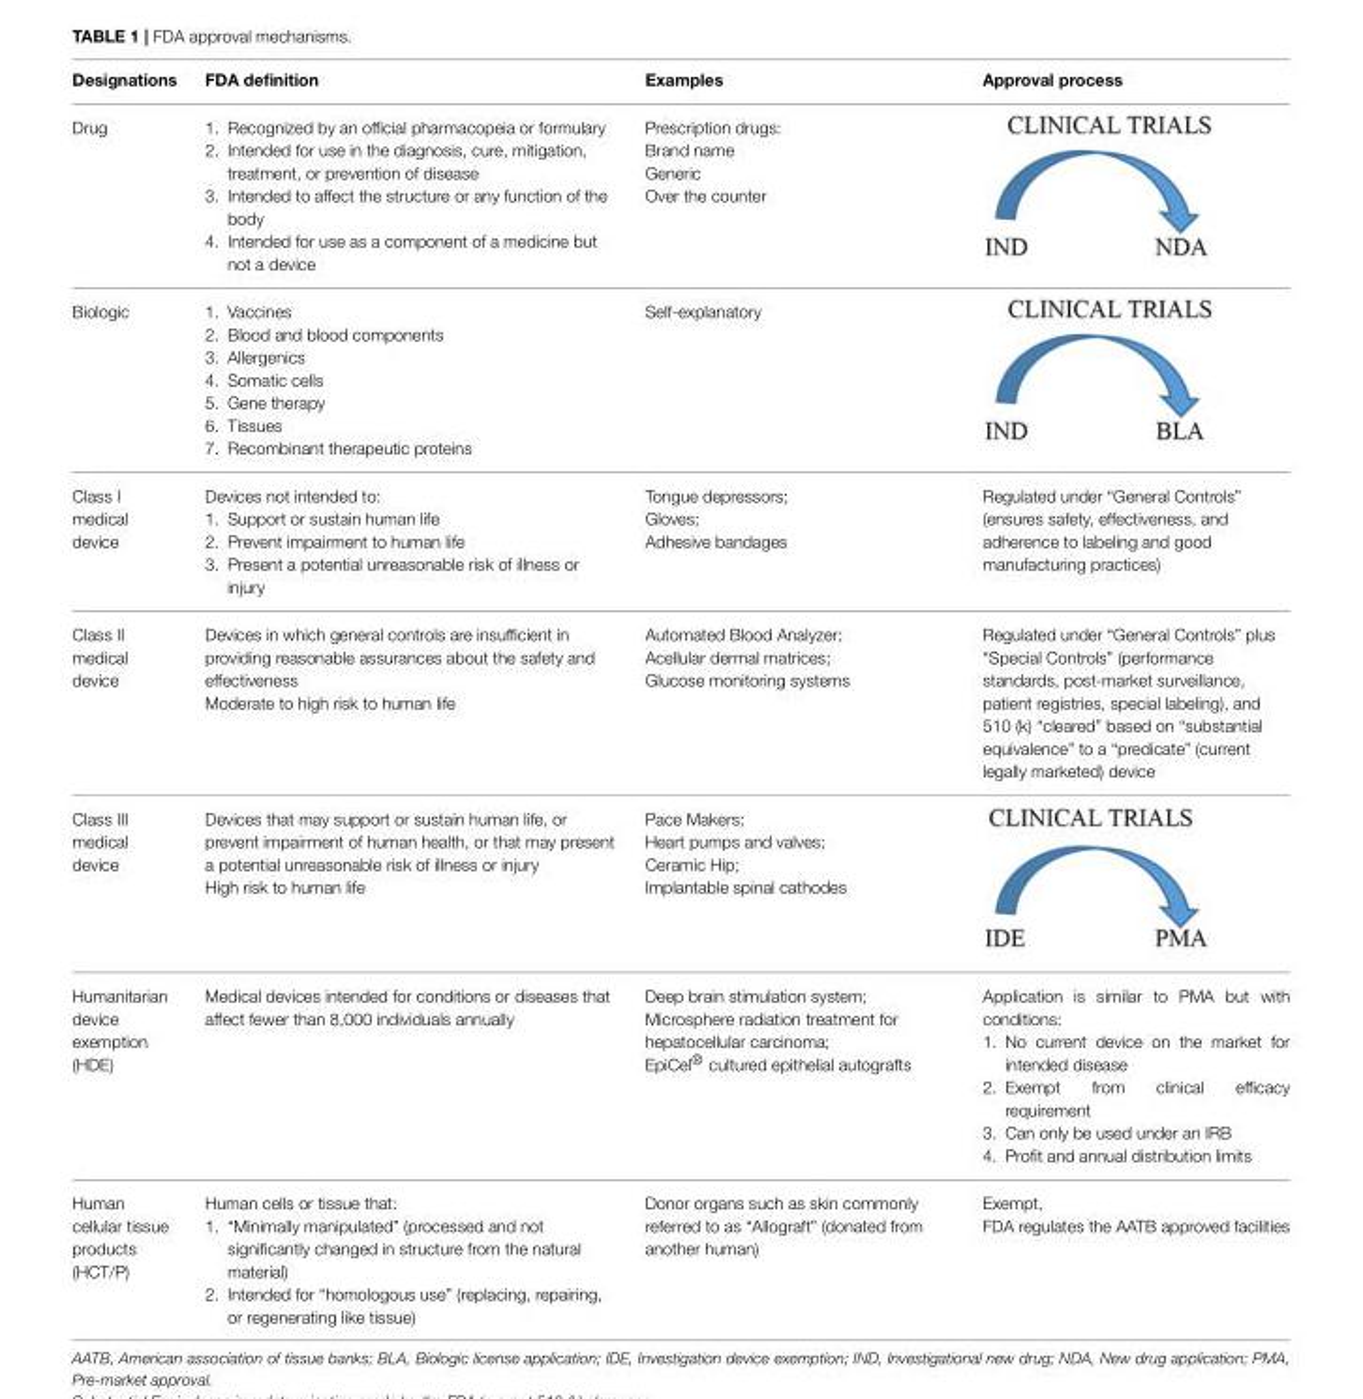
<table><thead><tr><td>Designations</td><td>FDA definition</td><td>Examples</td><td>Approval process</td></tr></thead><tbody><tr><td>Drug</td><td>1. Recognized by an official pharmacopeia or formulary 2. Intended for use in the diagnosis, cure, mitigation, treatment, or prevention of disease 3. Intended to affect the structure or any function of the body 4. Intended for use as a component of a medicine but not a device</td><td>Prescription drugs: Brand name Generic Over the counter</td><td></td></tr><tr><td>Biologic</td><td>1. Vaccines 2. Blood and blood components 3. Allergenics 4. Somatic cells 5. Gene therapy 6. Tissues 7. Recombinant therapeutic proteins</td><td>Self-explanatory</td><td></td></tr><tr><td>Class I medical device</td><td>Devices not intended to: 1. Support or sustain human life 2. Prevent impairment to human life 3. Present a potential unreasonable risk of illness or injury</td><td>Tongue depressors; Gloves; Adhesive bandages</td><td>Regulated under “General Controls” (ensures safety, effectiveness, and adherence to labeling and good manufacturing practices)</td></tr><tr><td>Class II medical device</td><td>Devices in which general controls are insufficient in providing reasonable assurances about the safety and effectiveness Moderate to high risk to human life</td><td>Automated Blood Analyzer; Acellular dermal matrices; Glucose monitoring systems</td><td>Regulated under “General Controls” plus “Special Controls” (performance standards, post-market surveillance, patient registries, special labeling), and 510 (k) “cleared” based on “substantial equivalence” to a “predicate” (current legally marketed) device</td></tr><tr><td>Class III medical device</td><td>Devices that may support or sustain human life, or prevent impairment of human health, or that may present a potential unreasonable risk of illness or injury High risk to human life</td><td>Pace Makers; Heart pumps and valves; Ceramic Hip; Implantable spinal cathodes</td><td></td></tr><tr><td>Humanitarian device exemption (HDE)</td><td>Medical devices intended for conditions or diseases that affect fewer than 8,000 individuals annually</td><td>Deep brain stimulation system; Microsphere radiation treatment for hepatocellular carcinoma; EpiCel® cultured epithelial autografts</td><td>Application is similar to PMA but with conditions: 1. No current device on the market for intended disease 2. Exempt from clinical efficacy requirement 3. Can only be used under an IRB 4. Profit and annual distribution limits</td></tr><tr><td>Human cellular tissue products (HCT/P)</td><td>Human cells or tissue that: 1. “Minimally manipulated” (processed and not significantly changed in structure from the natural material) 2. Intended for “homologous use” (replacing, repairing, or regenerating like tissue)</td><td>Donor organs such as skin commonly referred to as “Allograft” (donated from another human)</td><td>Exempt, FDA regulates the AATB approved facilities</td></tr></tbody></table>